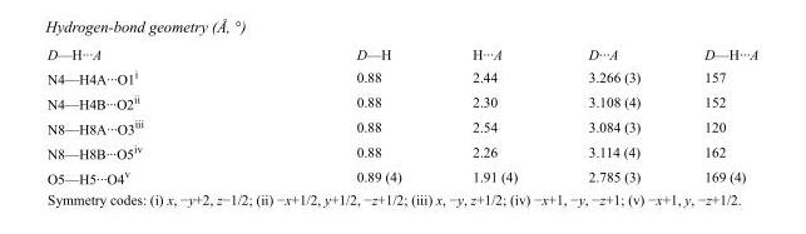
<table><tbody><tr><td>D—H···A</td><td>D—H</td><td>H···A</td><td>D···A</td><td>D—H···A</td></tr><tr><td>N4—H4A···O1<sup>i</sup></td><td>0.88</td><td>2.44</td><td>3.266 (3)</td><td>157</td></tr><tr><td>N4—H4B···O2<sup>ii</sup></td><td>0.88</td><td>2.30</td><td>3.108 (4)</td><td>152</td></tr><tr><td>N8—H8A···O3<sup>iii</sup></td><td>0.88</td><td>2.54</td><td>3.084 (3)</td><td>120</td></tr><tr><td>N8—H8B···O5<sup>iv</sup></td><td>0.88</td><td>2.26</td><td>3.114 (4)</td><td>162</td></tr><tr><td>O5—H5···O4<sup>v</sup></td><td>0.89 (4)</td><td>1.91 (4)</td><td>2.785 (3)</td><td>169 (4)</td></tr></tbody></table>